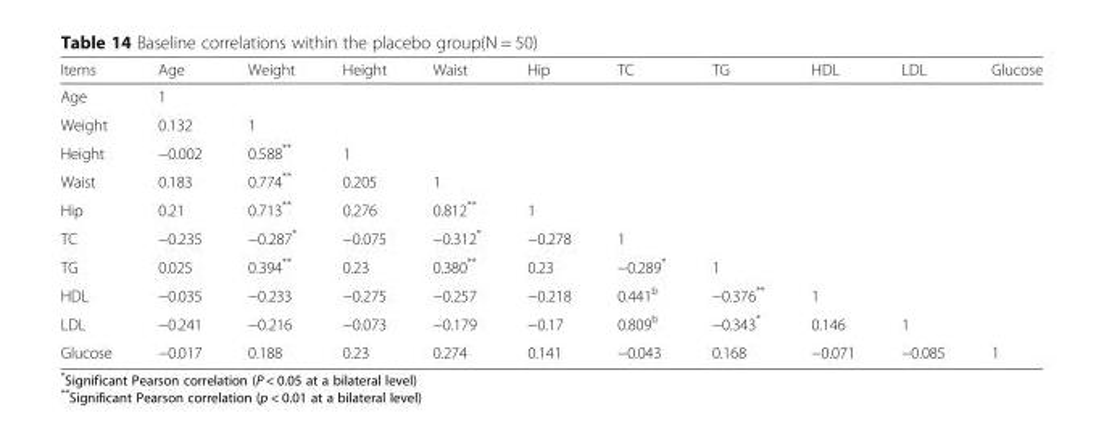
<table><thead><tr><td>Items</td><td>Age</td><td>Weight</td><td>Height</td><td>Waist</td><td>Hip</td><td>TC</td><td>TG</td><td>HDL</td><td>LDL</td><td>Glucose</td></tr></thead><tbody><tr><td>Age</td><td>1</td><td></td><td></td><td></td><td></td><td></td><td></td><td></td><td></td><td></td></tr><tr><td>Weight</td><td>0.132</td><td>1</td><td></td><td></td><td></td><td></td><td></td><td></td><td></td><td></td></tr><tr><td>Height</td><td>−0.002</td><td>0.588**</td><td>1</td><td></td><td></td><td></td><td></td><td></td><td></td><td></td></tr><tr><td>Waist</td><td>0.183</td><td>0.774**</td><td>0.205</td><td>1</td><td></td><td></td><td></td><td></td><td></td><td></td></tr><tr><td>Hip</td><td>0.21</td><td>0.713**</td><td>0.276</td><td>0.812**</td><td>1</td><td></td><td></td><td></td><td></td><td></td></tr><tr><td>TC</td><td>−0.235</td><td>−0.287*</td><td>−0.075</td><td>−0.312*</td><td>−0.278</td><td>1</td><td></td><td></td><td></td><td></td></tr><tr><td>TG</td><td>0.025</td><td>0.394**</td><td>0.23</td><td>0.380**</td><td>0.23</td><td>−0.289*</td><td>1</td><td></td><td></td><td></td></tr><tr><td>HDL</td><td>−0.035</td><td>−0.233</td><td>−0.275</td><td>−0.257</td><td>−0.218</td><td>0.441<sup>b</sup></td><td>−0.376**</td><td>1</td><td></td><td></td></tr><tr><td>LDL</td><td>−0.241</td><td>−0.216</td><td>−0.073</td><td>−0.179</td><td>−0.17</td><td>0.809<sup>b</sup></td><td>−0.343*</td><td>0.146</td><td>1</td><td></td></tr><tr><td>Glucose</td><td>−0.017</td><td>0.188</td><td>0.23</td><td>0.274</td><td>0.141</td><td>−0.043</td><td>0.168</td><td>−0.071</td><td>−0.085</td><td>1</td></tr></tbody></table>